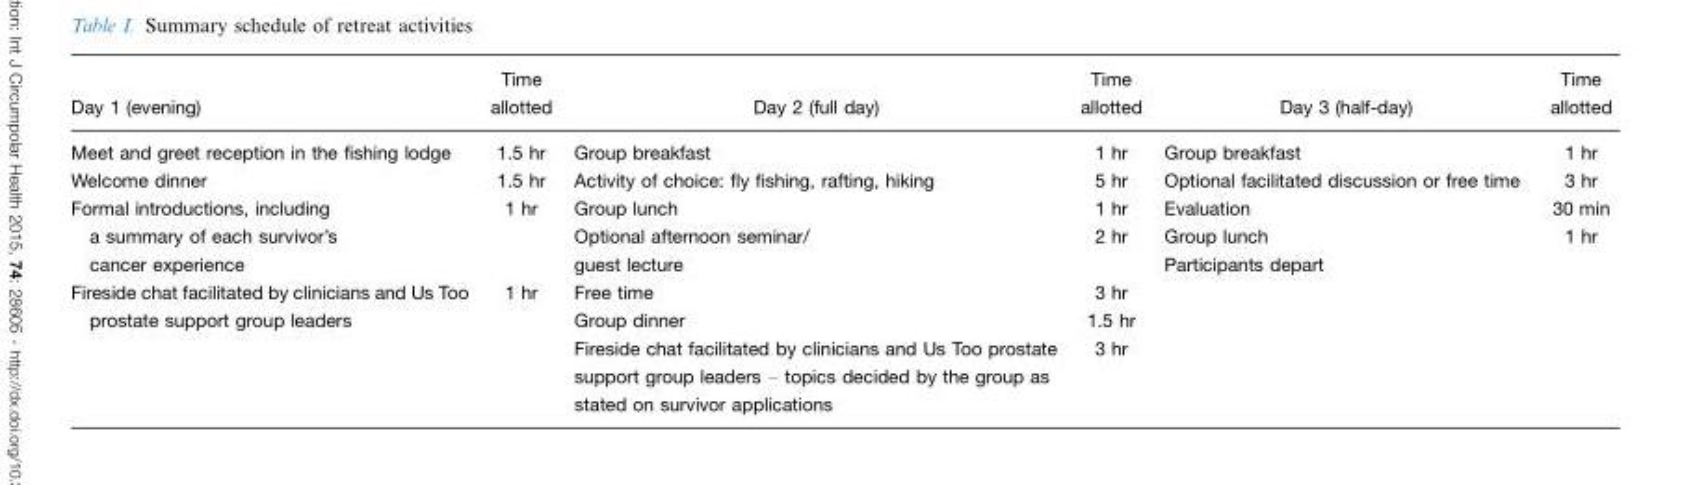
<table><thead><tr><td>Day 1 (evening)</td><td>Time allotted</td><td>Day 2 (full day)</td><td>Time allotted</td><td>Day 3 (half-day)</td><td>Time allotted</td></tr></thead><tbody><tr><td>Meet and greet reception in the fishing lodge</td><td>1.5 hr</td><td>Group breakfast</td><td>1 hr</td><td>Group breakfast</td><td>1 hr</td></tr><tr><td>Welcome dinner</td><td>1.5 hr</td><td>Activity of choice: fly fishing, rafting, hiking</td><td>5 hr</td><td>Optional facilitated discussion or free time</td><td>3 hr</td></tr><tr><td>Formal introductions, including a summary of each survivor’s cancer experience</td><td>1 hr</td><td>Group lunch Optional afternoon seminar/ guest lecture</td><td>1 hr 2 hr</td><td>Evaluation Group lunch Participants depart</td><td>30 min 1 hr</td></tr><tr><td>Fireside chat facilitated by clinicians and Us Too prostate support group leaders</td><td>1 hr</td><td>Free time Group dinner Fireside chat facilitated by clinicians and Us Too prostate support group leaders – topics decided by the group as stated on survivor applications</td><td>3 hr 1.5 hr 3 hr</td><td></td><td></td></tr></tbody></table>